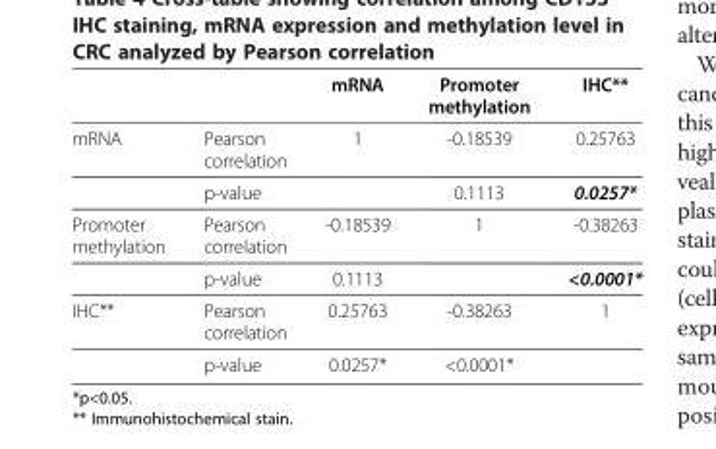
<table><thead><tr><td></td><td></td><td>mRNA</td><td>Promoter methylation</td><td>IHC**</td></tr></thead><tbody><tr><td rowspan="2">mRNA</td><td>Pearson correlation</td><td>1</td><td>-0.18539</td><td>0.25763</td></tr><tr><td>p-value</td><td></td><td>0.1113</td><td>0.0257*</td></tr><tr><td rowspan="2">Promoter methylation</td><td>Pearson correlation</td><td>-0.18539</td><td>1</td><td>-0.38263</td></tr><tr><td>p-value</td><td>0.1113</td><td></td><td>&lt;0.0001*</td></tr><tr><td rowspan="2">IHC**</td><td>Pearson correlation</td><td>0.25763</td><td>-0.38263</td><td>1</td></tr><tr><td>p-value</td><td>0.0257*</td><td>&lt;0.0001*</td><td></td></tr></tbody></table>